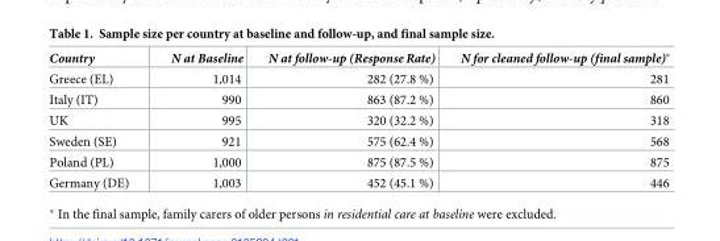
<table><thead><tr><td>Country</td><td>N at Baseline</td><td>N at follow-up (Response Rate)</td><td>N for cleaned follow-up (final sample)*</td></tr></thead><tbody><tr><td>Greece (EL)</td><td>1,014</td><td>282 (27.8 %)</td><td>281</td></tr><tr><td>Italy (IT)</td><td>990</td><td>863 (87.2 %)</td><td>860</td></tr><tr><td>UK</td><td>995</td><td>320 (32.2 %)</td><td>318</td></tr><tr><td>Sweden (SE)</td><td>921</td><td>575 (62.4 %)</td><td>568</td></tr><tr><td>Poland (PL)</td><td>1,000</td><td>875 (87.5 %)</td><td>875</td></tr><tr><td>Germany (DE)</td><td>1,003</td><td>452 (45.1 %)</td><td>446</td></tr></tbody></table>